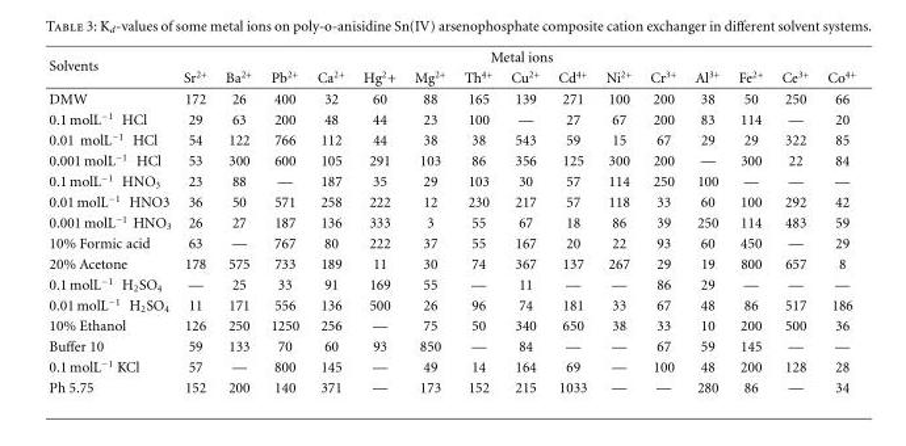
<table><thead><tr><td rowspan="2">Solvents</td><td colspan="15">Metal ions</td></tr><tr><td>Sr<sup>2+</sup></td><td>Ba<sup>2+</sup></td><td>Pb<sup>2+</sup></td><td>Ca<sup>2+</sup></td><td>Hg<sup>2</sup>+</td><td>Mg<sup>2+</sup></td><td>Th<sup>4+</sup></td><td>Cu<sup>2+</sup></td><td>Cd<sup>4+</sup></td><td>Ni<sup>2+</sup></td><td>Cr<sup>3+</sup></td><td>Al<sup>3+</sup></td><td>Fe<sup>2+</sup></td><td>Ce<sup>3+</sup></td><td>Co<sup>4+</sup></td></tr></thead><tbody><tr><td>DMW</td><td>172</td><td>26</td><td>400</td><td>32</td><td>60</td><td>88</td><td>165</td><td>139</td><td>271</td><td>100</td><td>200</td><td>38</td><td>50</td><td>250</td><td>66</td></tr><tr><td>0.1 molL<sup>−1</sup> HCl</td><td>29</td><td>63</td><td>200</td><td>48</td><td>44</td><td>23</td><td>100</td><td>—</td><td>27</td><td>67</td><td>200</td><td>83</td><td>114</td><td>—</td><td>20</td></tr><tr><td>0.01 molL<sup>−1</sup> HCl</td><td>54</td><td>122</td><td>766</td><td>112</td><td>44</td><td>38</td><td>38</td><td>543</td><td>59</td><td>15</td><td>67</td><td>29</td><td>29</td><td>322</td><td>85</td></tr><tr><td>0.001 molL<sup>−1</sup> HCl</td><td>53</td><td>300</td><td>600</td><td>105</td><td>291</td><td>103</td><td>86</td><td>356</td><td>125</td><td>300</td><td>200</td><td>—</td><td>300</td><td>22</td><td>84</td></tr><tr><td>0.1 molL<sup>−1</sup> HNO<sub>3</sub></td><td>23</td><td>88</td><td>—</td><td>187</td><td>35</td><td>29</td><td>103</td><td>30</td><td>57</td><td>114</td><td>250</td><td>100</td><td>—</td><td>—</td><td>—</td></tr><tr><td>0.01 molL<sup>−1</sup> HNO3</td><td>36</td><td>50</td><td>571</td><td>258</td><td>222</td><td>12</td><td>230</td><td>217</td><td>57</td><td>118</td><td>33</td><td>60</td><td>100</td><td>292</td><td>42</td></tr><tr><td>0.001 molL<sup>−1</sup> HNO<sub>3</sub></td><td>26</td><td>27</td><td>187</td><td>136</td><td>333</td><td>3</td><td>55</td><td>67</td><td>18</td><td>86</td><td>39</td><td>250</td><td>114</td><td>483</td><td>59</td></tr><tr><td>10% Formic acid</td><td>63</td><td>—</td><td>767</td><td>80</td><td>222</td><td>37</td><td>55</td><td>167</td><td>20</td><td>22</td><td>93</td><td>60</td><td>450</td><td>—</td><td>29</td></tr><tr><td>20% Acetone</td><td>178</td><td>575</td><td>733</td><td>189</td><td>11</td><td>30</td><td>74</td><td>367</td><td>137</td><td>267</td><td>29</td><td>19</td><td>800</td><td>657</td><td>8</td></tr><tr><td>0.1 molL<sup>−1</sup> H<sub>2</sub>SO<sub>4</sub></td><td>—</td><td>25</td><td>33</td><td>91</td><td>169</td><td>55</td><td>—</td><td>11</td><td>—</td><td>—</td><td>86</td><td>29</td><td>—</td><td>—</td><td>—</td></tr><tr><td>0.01 molL<sup>−1</sup> H<sub>2</sub>SO<sub>4</sub></td><td>11</td><td>171</td><td>556</td><td>136</td><td>500</td><td>26</td><td>96</td><td>74</td><td>181</td><td>33</td><td>67</td><td>48</td><td>86</td><td>517</td><td>186</td></tr><tr><td>10% Ethanol</td><td>126</td><td>250</td><td>1250</td><td>256</td><td>—</td><td>75</td><td>50</td><td>340</td><td>650</td><td>38</td><td>33</td><td>10</td><td>200</td><td>500</td><td>36</td></tr><tr><td>Buffer 10</td><td>59</td><td>133</td><td>70</td><td>60</td><td>93</td><td>850</td><td>—</td><td>84</td><td>—</td><td>—</td><td>67</td><td>59</td><td>145</td><td>—</td><td>—</td></tr><tr><td>0.1 molL<sup>−1</sup> KCl</td><td>57</td><td>—</td><td>800</td><td>145</td><td>—</td><td>49</td><td>14</td><td>164</td><td>69</td><td>—</td><td>100</td><td>48</td><td>200</td><td>128</td><td>28</td></tr><tr><td>Ph 5.75</td><td>152</td><td>200</td><td>140</td><td>371</td><td>—</td><td>173</td><td>152</td><td>215</td><td>1033</td><td>—</td><td>—</td><td>280</td><td>86</td><td>—</td><td>34</td></tr></tbody></table>